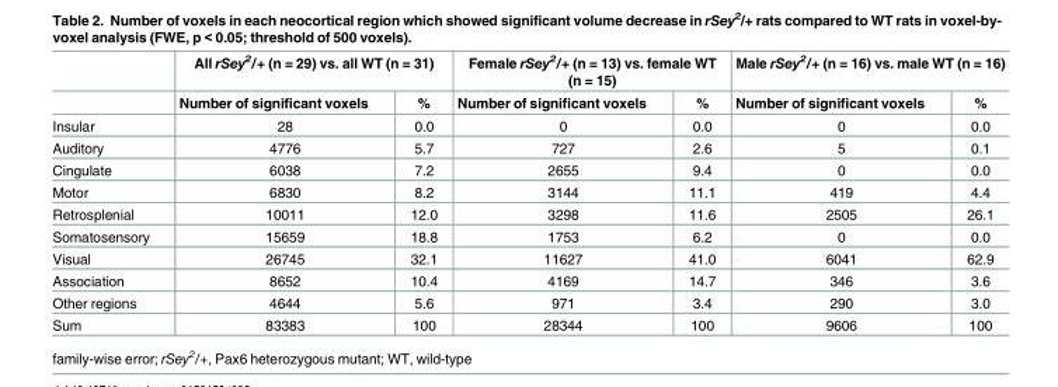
<table><thead><tr><td rowspan="2"></td><td colspan="2">All rSey<sup>2</sup>/+ (n = 29) vs. all WT (n = 31)</td><td colspan="2">Female rSey<sup>2</sup>/+ (n = 13) vs. female WT (n = 15)</td><td colspan="2">Male rSey<sup>2</sup>/+ (n = 16) vs. male WT (n = 16)</td></tr><tr><td>Number of significant voxels</td><td>%</td><td>Number of significant voxels</td><td>%</td><td>Number of significant voxels</td><td>%</td></tr></thead><tbody><tr><td>Insular</td><td>28</td><td>0.0</td><td>0</td><td>0.0</td><td>0</td><td>0.0</td></tr><tr><td>Auditory</td><td>4776</td><td>5.7</td><td>727</td><td>2.6</td><td>5</td><td>0.1</td></tr><tr><td>Cingulate</td><td>6038</td><td>7.2</td><td>2655</td><td>9.4</td><td>0</td><td>0.0</td></tr><tr><td>Motor</td><td>6830</td><td>8.2</td><td>3144</td><td>11.1</td><td>419</td><td>4.4</td></tr><tr><td>Retrosplenial</td><td>10011</td><td>12.0</td><td>3298</td><td>11.6</td><td>2505</td><td>26.1</td></tr><tr><td>Somatosensory</td><td>15659</td><td>18.8</td><td>1753</td><td>6.2</td><td>0</td><td>0.0</td></tr><tr><td>Visual</td><td>26745</td><td>32.1</td><td>11627</td><td>41.0</td><td>6041</td><td>62.9</td></tr><tr><td>Association</td><td>8652</td><td>10.4</td><td>4169</td><td>14.7</td><td>346</td><td>3.6</td></tr><tr><td>Other regions</td><td>4644</td><td>5.6</td><td>971</td><td>3.4</td><td>290</td><td>3.0</td></tr><tr><td>Sum</td><td>83383</td><td>100</td><td>28344</td><td>100</td><td>9606</td><td>100</td></tr></tbody></table>